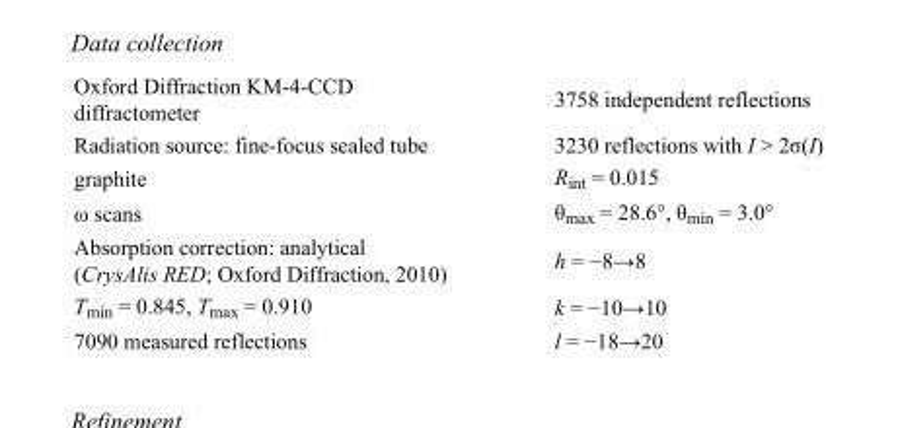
<table><tbody><tr><td>Oxford Diffraction KM-4-CCD diffractometer</td><td>3758 independent reflections</td></tr><tr><td>Radiation source: fine-focus sealed tube</td><td>3230 reflections with I &gt; 2σ(I)</td></tr><tr><td>graphite</td><td>R<sub>int</sub> = 0.015</td></tr><tr><td>ω scans</td><td>θ<sub>max</sub> = 28.6°, θ<sub>min</sub> = 3.0°</td></tr><tr><td>Absorption correction: analytical (CrysAlis RED; Oxford Diffraction, 2010)</td><td>h = −8→8</td></tr><tr><td>T<sub>min</sub> = 0.845, T<sub>max</sub> = 0.910</td><td>k = −10→10</td></tr><tr><td>7090 measured reflections</td><td>l = −18→20</td></tr></tbody></table>